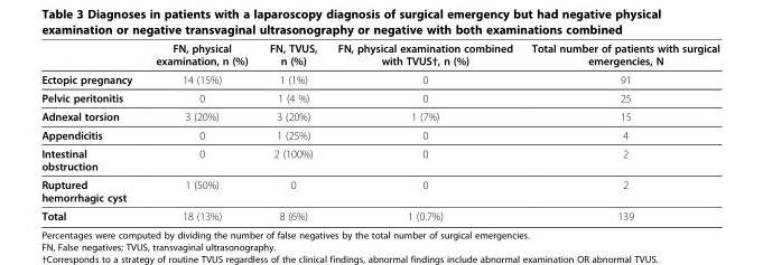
<table><thead><tr><td></td><td>FN, physical examination, n (%)</td><td>FN, TVUS, n (%)</td><td>FN, physical examination combined with TVUS†, n (%)</td><td>Total number of patients with surgical emergencies, N</td></tr></thead><tbody><tr><td>Ectopic pregnancy</td><td>14 (15%)</td><td>1 (1%)</td><td>0</td><td>91</td></tr><tr><td>Pelvic peritonitis</td><td>0</td><td>1 (4 %)</td><td>0</td><td>25</td></tr><tr><td>Adnexal torsion</td><td>3 (20%)</td><td>3 (20%)</td><td>1 (7%)</td><td>15</td></tr><tr><td>Appendicitis</td><td>0</td><td>1 (25%)</td><td>0</td><td>4</td></tr><tr><td>Intestinal obstruction</td><td>0</td><td>2 (100%)</td><td>0</td><td>2</td></tr><tr><td>Ruptured hemorrhagic cyst</td><td>1 (50%)</td><td>0</td><td>0</td><td>2</td></tr><tr><td>Total</td><td>18 (13%)</td><td>8 (6%)</td><td>1 (0.7%)</td><td>139</td></tr></tbody></table>